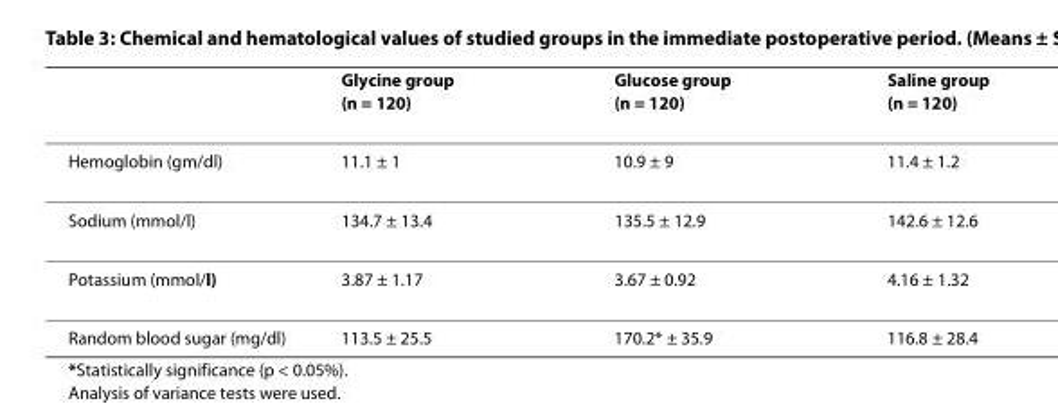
<table><thead><tr><td></td><td>Glycine group (n = 120)</td><td>Glucose group (n = 120)</td><td>Saline group (n = 120)</td></tr></thead><tbody><tr><td>Hemoglobin (gm/dl)</td><td>11.1 ± 1</td><td>10.9 ± 9</td><td>11.4 ± 1.2</td></tr><tr><td>Sodium (mmol/l)</td><td>134.7 ± 13.4</td><td>135.5 ± 12.9</td><td>142.6 ± 12.6</td></tr><tr><td>Potassium (mmol/l)</td><td>3.87 ± 1.17</td><td>3.67 ± 0.92</td><td>4.16 ± 1.32</td></tr><tr><td>Random blood sugar (mg/dl)</td><td>113.5 ± 25.5</td><td>170.2* ± 35.9</td><td>116.8 ± 28.4</td></tr></tbody></table>